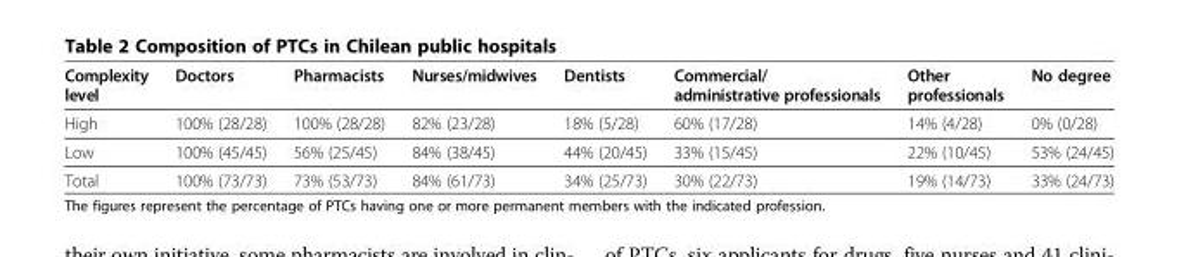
<table><thead><tr><td>Complexity level</td><td>Doctors</td><td>Pharmacists</td><td>Nurses/midwives</td><td>Dentists</td><td>Commercial/ administrative professionals</td><td>Other professionals</td><td>No degree</td></tr></thead><tbody><tr><td>High</td><td>100% (28/28)</td><td>100% (28/28)</td><td>82% (23/28)</td><td>18% (5/28)</td><td>60% (17/28)</td><td>14% (4/28)</td><td>0% (0/28)</td></tr><tr><td>Low</td><td>100% (45/45)</td><td>56% (25/45)</td><td>84% (38/45)</td><td>44% (20/45)</td><td>33% (15/45)</td><td>22% (10/45)</td><td>53% (24/45)</td></tr><tr><td>Total</td><td>100% (73/73)</td><td>73% (53/73)</td><td>84% (61/73)</td><td>34% (25/73)</td><td>30% (22/73)</td><td>19% (14/73)</td><td>33% (24/73)</td></tr></tbody></table>